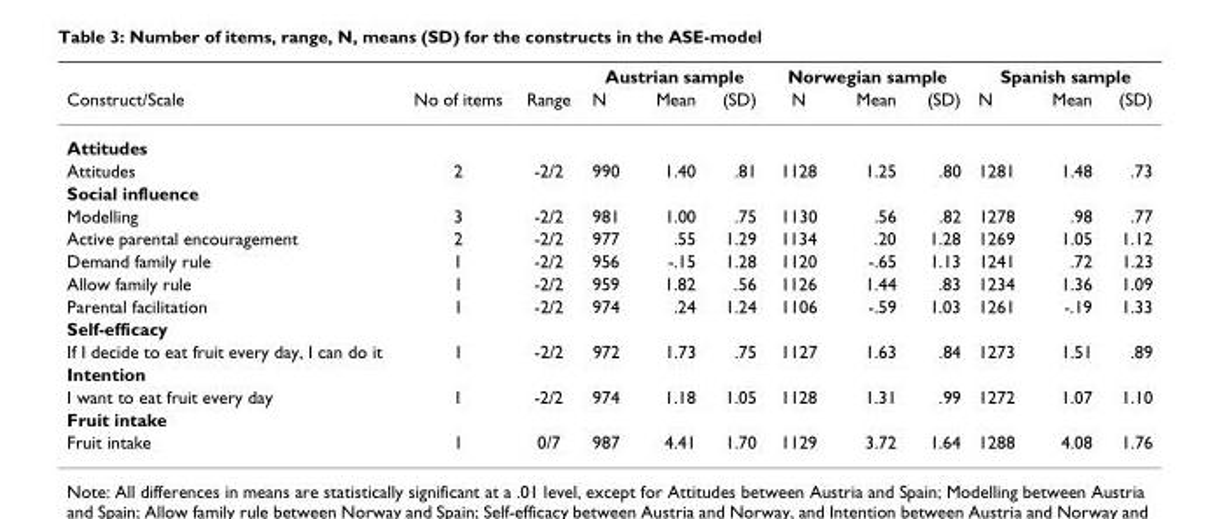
<table><thead><tr><td rowspan="2">Construct/Scale</td><td rowspan="2">No of items</td><td rowspan="2">Range</td><td colspan="3">Austrian sample</td><td colspan="3">Norwegian sample</td><td colspan="3">Spanish sample</td></tr><tr><td>N</td><td>Mean</td><td>(SD)</td><td>N</td><td>Mean</td><td>(SD)</td><td>N</td><td>Mean</td><td>(SD)</td></tr></thead><tbody><tr><td colspan="12">Attitudes</td></tr><tr><td>Attitudes</td><td>2</td><td>-2/2</td><td>990</td><td>1.40</td><td>.81</td><td>1128</td><td>1.25</td><td>.80</td><td>1281</td><td>1.48</td><td>.73</td></tr><tr><td colspan="12">Social influence</td></tr><tr><td>Modelling</td><td>3</td><td>-2/2</td><td>981</td><td>1.00</td><td>.75</td><td>1130</td><td>.56</td><td>.82</td><td>1278</td><td>.98</td><td>.77</td></tr><tr><td>Active parental encouragement</td><td>2</td><td>-2/2</td><td>977</td><td>.55</td><td>1.29</td><td>1134</td><td>.20</td><td>1.28</td><td>1269</td><td>1.05</td><td>1.12</td></tr><tr><td>Demand family rule</td><td>1</td><td>-2/2</td><td>956</td><td>-.15</td><td>1.28</td><td>1120</td><td>-.65</td><td>1.13</td><td>1241</td><td>.72</td><td>1.23</td></tr><tr><td>Allow family rule</td><td>1</td><td>-2/2</td><td>959</td><td>1.82</td><td>.56</td><td>1126</td><td>1.44</td><td>.83</td><td>1234</td><td>1.36</td><td>1.09</td></tr><tr><td>Parental facilitation</td><td>1</td><td>-2/2</td><td>974</td><td>.24</td><td>1.24</td><td>1106</td><td>-.59</td><td>1.03</td><td>1261</td><td>-.19</td><td>1.33</td></tr><tr><td colspan="12">Self-efficacy</td></tr><tr><td>If I decide to eat fruit every day, I can do it</td><td>1</td><td>-2/2</td><td>972</td><td>1.73</td><td>.75</td><td>1127</td><td>1.63</td><td>.84</td><td>1273</td><td>1.51</td><td>.89</td></tr><tr><td colspan="12">Intention</td></tr><tr><td>I want to eat fruit every day</td><td>1</td><td>-2/2</td><td>974</td><td>1.18</td><td>1.05</td><td>1128</td><td>1.31</td><td>.99</td><td>1272</td><td>1.07</td><td>1.10</td></tr><tr><td colspan="12">Fruit intake</td></tr><tr><td>Fruit intake</td><td>1</td><td>0/7</td><td>987</td><td>4.41</td><td>1.70</td><td>1129</td><td>3.72</td><td>1.64</td><td>1288</td><td>4.08</td><td>1.76</td></tr></tbody></table>